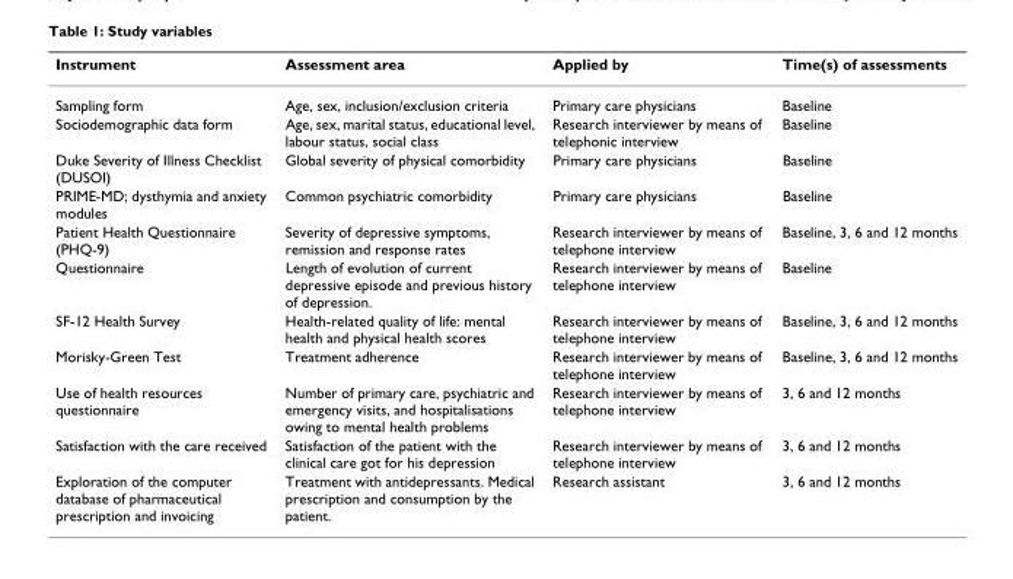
<table><thead><tr><td>Instrument</td><td>Assessment area</td><td>Applied by</td><td>Time(s) of assessments</td></tr></thead><tbody><tr><td>Sampling form</td><td>Age, sex, inclusion/exclusion criteria</td><td>Primary care physicians</td><td>Baseline</td></tr><tr><td>Sociodemographic data form</td><td>Age, sex, marital status, educational level, labour status, social class</td><td>Research interviewer by means of telephonic interview</td><td>Baseline</td></tr><tr><td>Duke Severity of Illness Checklist (DUSOI)</td><td>Global severity of physical comorbidity</td><td>Primary care physicians</td><td>Baseline</td></tr><tr><td>PRIME-MD; dysthymia and anxiety modules</td><td>Common psychiatric comorbidity</td><td>Primary care physicians</td><td>Baseline</td></tr><tr><td>Patient Health Questionnaire (PHQ-9)</td><td>Severity of depressive symptoms, remission and response rates</td><td>Research interviewer by means of telephone interview</td><td>Baseline, 3, 6 and 12 months</td></tr><tr><td>Questionnaire</td><td>Length of evolution of current depressive episode and previous history of depression.</td><td>Research interviewer by means of telephone interview</td><td>Baseline</td></tr><tr><td>SF-12 Health Survey</td><td>Health-related quality of life: mental health and physical health scores</td><td>Research interviewer by means of telephone interview</td><td>Baseline, 3, 6 and 12 months</td></tr><tr><td>Morisky-Green Test</td><td>Treatment adherence</td><td>Research interviewer by means of telephone interview</td><td>Baseline, 3, 6 and 12 months</td></tr><tr><td>Use of health resources questionnaire</td><td>Number of primary care, psychiatric and emergency visits, and hospitalisations owing to mental health problems</td><td>Research interviewer by means of telephone interview</td><td>3, 6 and 12 months</td></tr><tr><td>Satisfaction with the care received</td><td>Satisfaction of the patient with the clinical care got for his depression</td><td>Research interviewer by means of telephone interview</td><td>3, 6 and 12 months</td></tr><tr><td>Exploration of the computer database of pharmaceutical prescription and invoicing</td><td>Treatment with antidepressants. Medical prescription and consumption by the patient.</td><td>Research assistant</td><td>3, 6 and 12 months</td></tr></tbody></table>